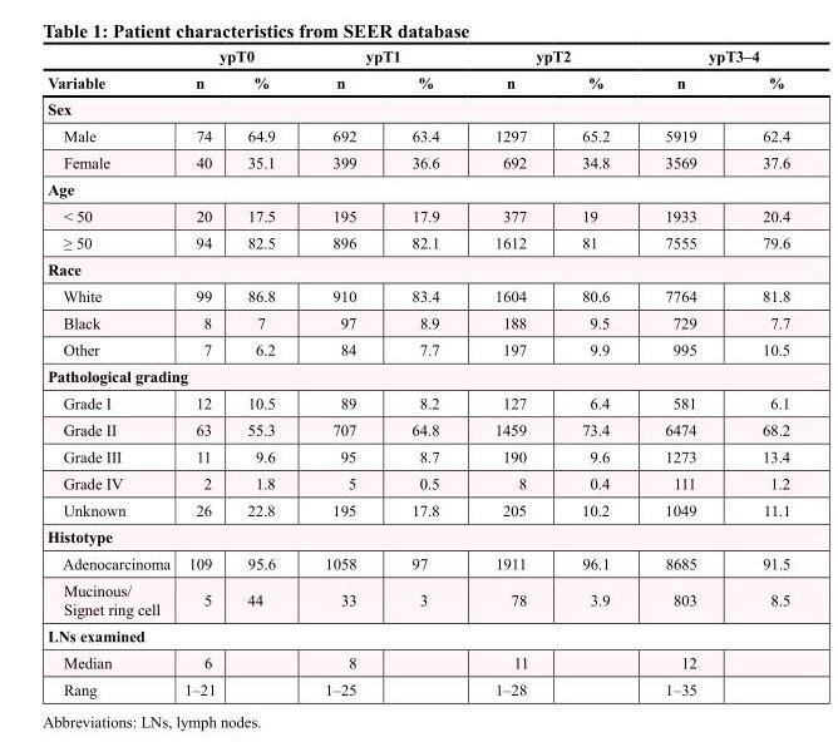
<table><thead><tr><td rowspan="2">Variable</td><td colspan="2">ypT0</td><td colspan="2">ypT1</td><td colspan="2">ypT2</td><td colspan="2">ypT3–4</td></tr><tr><td>n</td><td>%</td><td>n</td><td>%</td><td>n</td><td>%</td><td>n</td><td>%</td></tr></thead><tbody><tr><td colspan="9">Sex</td></tr><tr><td>Male</td><td>74</td><td>64.9</td><td>692</td><td>63.4</td><td>1297</td><td>65.2</td><td>5919</td><td>62.4</td></tr><tr><td>Female</td><td>40</td><td>35.1</td><td>399</td><td>36.6</td><td>692</td><td>34.8</td><td>3569</td><td>37.6</td></tr><tr><td colspan="9">Age</td></tr><tr><td>&lt; 50</td><td>20</td><td>17.5</td><td>195</td><td>17.9</td><td>377</td><td>19</td><td>1933</td><td>20.4</td></tr><tr><td>≥ 50</td><td>94</td><td>82.5</td><td>896</td><td>82.1</td><td>1612</td><td>81</td><td>7555</td><td>79.6</td></tr><tr><td colspan="9">Race</td></tr><tr><td>White</td><td>99</td><td>86.8</td><td>910</td><td>83.4</td><td>1604</td><td>80.6</td><td>7764</td><td>81.8</td></tr><tr><td>Black</td><td>8</td><td>7</td><td>97</td><td>8.9</td><td>188</td><td>9.5</td><td>729</td><td>7.7</td></tr><tr><td>Other</td><td>7</td><td>6.2</td><td>84</td><td>7.7</td><td>197</td><td>9.9</td><td>995</td><td>10.5</td></tr><tr><td colspan="9">Pathological grading</td></tr><tr><td>Grade I</td><td>12</td><td>10.5</td><td>89</td><td>8.2</td><td>127</td><td>6.4</td><td>581</td><td>6.1</td></tr><tr><td>Grade II</td><td>63</td><td>55.3</td><td>707</td><td>64.8</td><td>1459</td><td>73.4</td><td>6474</td><td>68.2</td></tr><tr><td>Grade III</td><td>11</td><td>9.6</td><td>95</td><td>8.7</td><td>190</td><td>9.6</td><td>1273</td><td>13.4</td></tr><tr><td>Grade IV</td><td>2</td><td>1.8</td><td>5</td><td>0.5</td><td>8</td><td>0.4</td><td>111</td><td>1.2</td></tr><tr><td>Unknown</td><td>26</td><td>22.8</td><td>195</td><td>17.8</td><td>205</td><td>10.2</td><td>1049</td><td>11.1</td></tr><tr><td colspan="9">Histotype</td></tr><tr><td>Adenocarcinoma</td><td>109</td><td>95.6</td><td>1058</td><td>97</td><td>1911</td><td>96.1</td><td>8685</td><td>91.5</td></tr><tr><td>Mucinous/ Signet ring cell</td><td>5</td><td>44</td><td>33</td><td>3</td><td>78</td><td>3.9</td><td>803</td><td>8.5</td></tr><tr><td colspan="9">LNs examined</td></tr><tr><td>Median</td><td>6</td><td></td><td>8</td><td></td><td>11</td><td></td><td>12</td><td></td></tr><tr><td>Rang</td><td>1–21</td><td></td><td>1–25</td><td></td><td>1–28</td><td></td><td>1–35</td><td></td></tr></tbody></table>